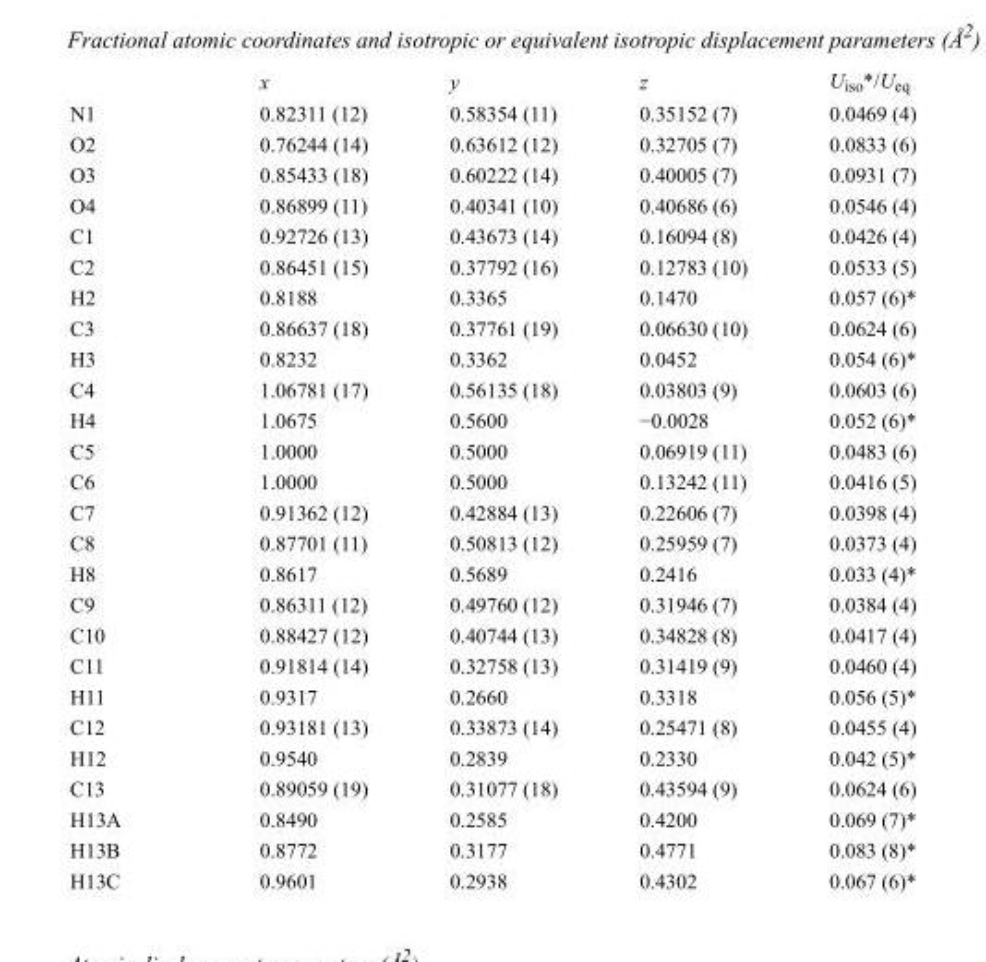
<table><thead><tr><td></td><td>x</td><td>y</td><td>z</td><td>U<sub>iso</sub>*/U<sub>eq</sub></td></tr></thead><tbody><tr><td>N1</td><td>0.82311 (12)</td><td>0.58354 (11)</td><td>0.35152 (7)</td><td>0.0469 (4)</td></tr><tr><td>O2</td><td>0.76244 (14)</td><td>0.63612 (12)</td><td>0.32705 (7)</td><td>0.0833 (6)</td></tr><tr><td>O3</td><td>0.85433 (18)</td><td>0.60222 (14)</td><td>0.40005 (7)</td><td>0.0931 (7)</td></tr><tr><td>O4</td><td>0.86899 (11)</td><td>0.40341 (10)</td><td>0.40686 (6)</td><td>0.0546 (4)</td></tr><tr><td>C1</td><td>0.92726 (13)</td><td>0.43673 (14)</td><td>0.16094 (8)</td><td>0.0426 (4)</td></tr><tr><td>C2</td><td>0.86451 (15)</td><td>0.37792 (16)</td><td>0.12783 (10)</td><td>0.0533 (5)</td></tr><tr><td>H2</td><td>0.8188</td><td>0.3365</td><td>0.1470</td><td>0.057 (6)*</td></tr><tr><td>C3</td><td>0.86637 (18)</td><td>0.37761 (19)</td><td>0.06630 (10)</td><td>0.0624 (6)</td></tr><tr><td>H3</td><td>0.8232</td><td>0.3362</td><td>0.0452</td><td>0.054 (6)*</td></tr><tr><td>C4</td><td>1.06781 (17)</td><td>0.56135 (18)</td><td>0.03803 (9)</td><td>0.0603 (6)</td></tr><tr><td>H4</td><td>1.0675</td><td>0.5600</td><td>−0.0028</td><td>0.052 (6)*</td></tr><tr><td>C5</td><td>1.0000</td><td>0.5000</td><td>0.06919 (11)</td><td>0.0483 (6)</td></tr><tr><td>C6</td><td>1.0000</td><td>0.5000</td><td>0.13242 (11)</td><td>0.0416 (5)</td></tr><tr><td>C7</td><td>0.91362 (12)</td><td>0.42884 (13)</td><td>0.22606 (7)</td><td>0.0398 (4)</td></tr><tr><td>C8</td><td>0.87701 (11)</td><td>0.50813 (12)</td><td>0.25959 (7)</td><td>0.0373 (4)</td></tr><tr><td>H8</td><td>0.8617</td><td>0.5689</td><td>0.2416</td><td>0.033 (4)*</td></tr><tr><td>C9</td><td>0.86311 (12)</td><td>0.49760 (12)</td><td>0.31946 (7)</td><td>0.0384 (4)</td></tr><tr><td>C10</td><td>0.88427 (12)</td><td>0.40744 (13)</td><td>0.34828 (8)</td><td>0.0417 (4)</td></tr><tr><td>C11</td><td>0.91814 (14)</td><td>0.32758 (13)</td><td>0.31419 (9)</td><td>0.0460 (4)</td></tr><tr><td>H11</td><td>0.9317</td><td>0.2660</td><td>0.3318</td><td>0.056 (5)*</td></tr><tr><td>C12</td><td>0.93181 (13)</td><td>0.33873 (14)</td><td>0.25471 (8)</td><td>0.0455 (4)</td></tr><tr><td>H12</td><td>0.9540</td><td>0.2839</td><td>0.2330</td><td>0.042 (5)*</td></tr><tr><td>C13</td><td>0.89059 (19)</td><td>0.31077 (18)</td><td>0.43594 (9)</td><td>0.0624 (6)</td></tr><tr><td>H13A</td><td>0.8490</td><td>0.2585</td><td>0.4200</td><td>0.069 (7)*</td></tr><tr><td>H13B</td><td>0.8772</td><td>0.3177</td><td>0.4771</td><td>0.083 (8)*</td></tr><tr><td>H13C</td><td>0.9601</td><td>0.2938</td><td>0.4302</td><td>0.067 (6)*</td></tr></tbody></table>